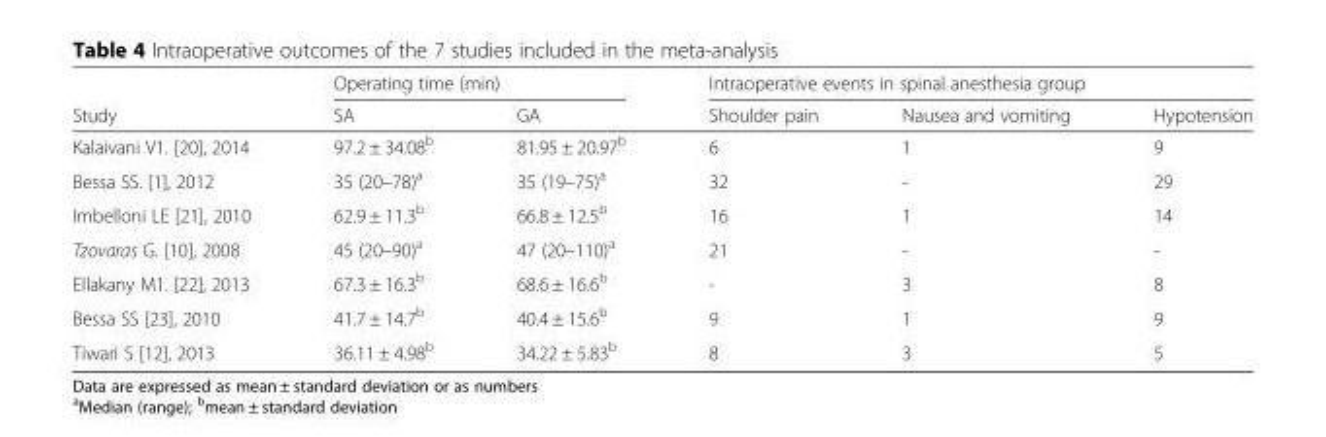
<table><thead><tr><td rowspan="2">Study</td><td colspan="2">Operating time (min)</td><td colspan="3">Intraoperative events in spinal anesthesia group</td></tr><tr><td>SA</td><td>GA</td><td>Shoulder pain</td><td>Nausea and vomiting</td><td>Hypotension</td></tr></thead><tbody><tr><td>Kalaivani V1. [20], 2014</td><td>97.2 ± 34.08<sup>b</sup></td><td>81.95 ± 20.97<sup>b</sup></td><td>6</td><td>1</td><td>9</td></tr><tr><td>Bessa SS. [1], 2012</td><td>35 (20–78)<sup>a</sup></td><td>35 (19–75)<sup>a</sup></td><td>32</td><td>-</td><td>29</td></tr><tr><td>Imbelloni LE [21], 2010</td><td>62.9 ± 11.3<sup>b</sup></td><td>66.8 ± 12.5<sup>b</sup></td><td>16</td><td>1</td><td>14</td></tr><tr><td>Tzovaras G. [10], 2008</td><td>45 (20–90)<sup>a</sup></td><td>47 (20–110)<sup>a</sup></td><td>21</td><td>-</td><td>-</td></tr><tr><td>Ellakany M1. [22], 2013</td><td>67.3 ± 16.3<sup>b</sup></td><td>68.6 ± 16.6<sup>b</sup></td><td>-</td><td>3</td><td>8</td></tr><tr><td>Bessa SS [23], 2010</td><td>41.7 ± 14.7<sup>b</sup></td><td>40.4 ± 15.6<sup>b</sup></td><td>9</td><td>1</td><td>9</td></tr><tr><td>Tiwari S [12], 2013</td><td>36.11 ± 4.98<sup>b</sup></td><td>34.22 ± 5.83<sup>b</sup></td><td>8</td><td>3</td><td>5</td></tr></tbody></table>